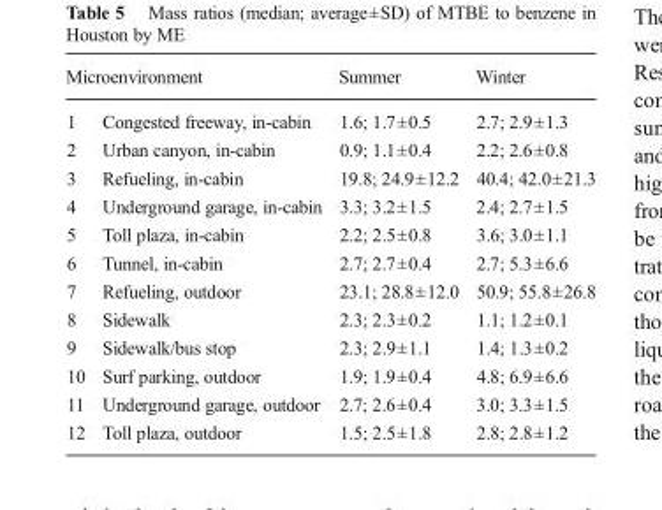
<table><thead><tr><td colspan="2">Microenvironment</td><td rowspan="2">Summer 1.6; 1.7±0.5</td><td rowspan="2">Winter 2.7; 2.9±1.3</td></tr><tr><td>1</td><td>Congested freeway, in-cabin</td></tr></thead><tbody><tr><td>2</td><td>Urban canyon, in-cabin</td><td>0.9; 1.1±0.4</td><td>2.2; 2.6±0.8</td></tr><tr><td>3</td><td>Refueling, in-cabin</td><td>19.8; 24.9±12.2</td><td>40.4; 42.0±21.3</td></tr><tr><td>4</td><td>Underground garage, in-cabin</td><td>3.3; 3.2±1.5</td><td>2.4; 2.7±1.5</td></tr><tr><td>5</td><td>Toll plaza, in-cabin</td><td>2.2; 2.5±0.8</td><td>3.6; 3.0±1.1</td></tr><tr><td>6</td><td>Tunnel, in-cabin</td><td>2.7; 2.7±0.4</td><td>2.7; 5.3±6.6</td></tr><tr><td>7</td><td>Refueling, outdoor</td><td>23.1; 28.8±12.0</td><td>50.9; 55.8±26.8</td></tr><tr><td>8</td><td>Sidewalk</td><td>2.3; 2.3±0.2</td><td>1.1; 1.2±0.1</td></tr><tr><td>9</td><td>Sidewalk/bus stop</td><td>2.3; 2.9±1.1</td><td>1.4; 1.3±0.2</td></tr><tr><td>10</td><td>Surf parking, outdoor</td><td>1.9; 1.9±0.4</td><td>4.8; 6.9±6.6</td></tr><tr><td>11</td><td>Underground garage, outdoor</td><td>2.7; 2.6±0.4</td><td>3.0; 3.3±1.5</td></tr><tr><td>12</td><td>Toll plaza, outdoor</td><td>1.5; 2.5±1.8</td><td>2.8; 2.8±1.2</td></tr></tbody></table>